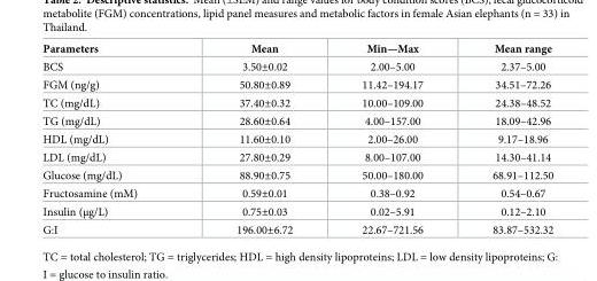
<table><thead><tr><td>Parameters</td><td>Mean</td><td>Min—Max</td><td>Mean range</td></tr></thead><tbody><tr><td>BCS</td><td>3.50±0.02</td><td>2.00–5.00</td><td>2.37–5.00</td></tr><tr><td>FGM (ng/g)</td><td>50.80±0.89</td><td>11.42–194.17</td><td>34.51–72.26</td></tr><tr><td>TC (mg/dL)</td><td>37.40±0.32</td><td>10.00–109.00</td><td>24.38–48.52</td></tr><tr><td>TG (mg/dL)</td><td>28.60±0.64</td><td>4.00–157.00</td><td>18.09–42.96</td></tr><tr><td>HDL (mg/dL)</td><td>11.60±0.10</td><td>2.00–26.00</td><td>9.17–18.96</td></tr><tr><td>LDL (mg/dL)</td><td>27.80±0.29</td><td>8.00–107.00</td><td>14.30–41.14</td></tr><tr><td>Glucose (mg/dL)</td><td>88.90±0.75</td><td>50.00–180.00</td><td>68.91–112.50</td></tr><tr><td>Fructosamine (mM)</td><td>0.59±0.01</td><td>0.38–0.92</td><td>0.54–0.67</td></tr><tr><td>Insulin (μg/L)</td><td>0.75±0.03</td><td>0.02–5.91</td><td>0.12–2.10</td></tr><tr><td>G:I</td><td>196.00±6.72</td><td>22.67–721.56</td><td>83.87–532.32</td></tr></tbody></table>